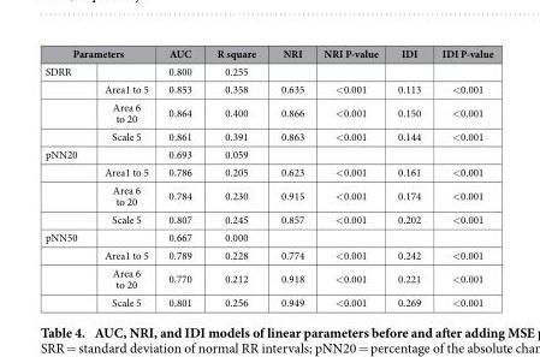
<table><thead><tr><td colspan="2">Parameters</td><td rowspan="2">AUC 0.800</td><td rowspan="2">R square 0.255</td><td rowspan="2">NRI</td><td rowspan="2">NRI P-value</td><td rowspan="2">IDI</td><td rowspan="2">IDI P-value</td></tr><tr><td>SDRR</td><td></td></tr></thead><tbody><tr><td></td><td>Area1 to 5</td><td>0.853</td><td>0.358</td><td>0.635</td><td>&lt; 0.001</td><td>0.113</td><td>&lt; 0.001</td></tr><tr><td></td><td>Area 6 to 20</td><td>0.864</td><td>0.400</td><td>0.866</td><td>&lt; 0.001</td><td>0.150</td><td>&lt; 0.001</td></tr><tr><td></td><td>Scale 5</td><td>0.861</td><td>0.391</td><td>0.863</td><td>&lt; 0.001</td><td>0.144</td><td>&lt; 0.001</td></tr><tr><td rowspan="4">pNN20</td><td></td><td>0.693</td><td>0.059</td><td></td><td></td><td></td><td></td></tr><tr><td>Area1 to 5</td><td>0.786</td><td>0.205</td><td>0.623</td><td>&lt; 0.001</td><td>0.161</td><td>&lt; 0.001</td></tr><tr><td>Area 6 to 20</td><td>0.784</td><td>0.230</td><td>0.915</td><td>&lt; 0.001</td><td>0.174</td><td>&lt; 0.001</td></tr><tr><td>Scale 5</td><td>0.807</td><td>0.245</td><td>0.857</td><td>&lt; 0.001</td><td>0.202</td><td>&lt; 0.001</td></tr><tr><td rowspan="4">pNN50</td><td></td><td>0.667</td><td>0.000</td><td></td><td></td><td></td><td></td></tr><tr><td>Area1 to 5</td><td>0.789</td><td>0.228</td><td>0.774</td><td>&lt; 0.001</td><td>0.242</td><td>&lt; 0.001</td></tr><tr><td>Area 6 to 20</td><td>0.770</td><td>0.212</td><td>0.918</td><td>&lt; 0.001</td><td>0.221</td><td>&lt; 0.001</td></tr><tr><td>Scale 5</td><td>0.801</td><td>0.256</td><td>0.949</td><td>&lt; 0.001</td><td>0.269</td><td>&lt; 0.001</td></tr></tbody></table>